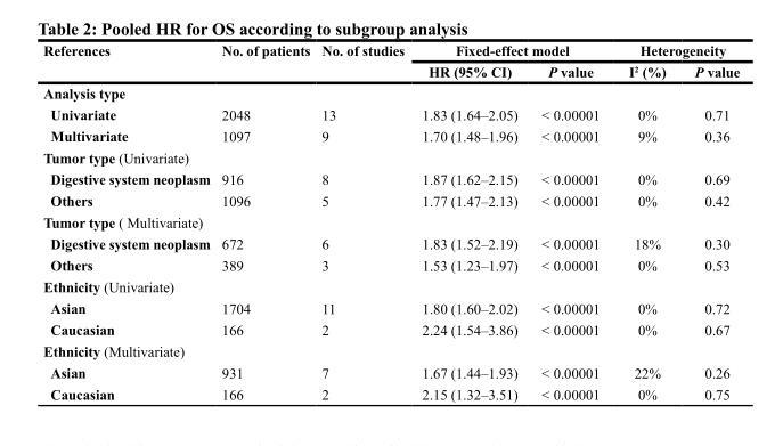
<table><thead><tr><td rowspan="2">References</td><td rowspan="2">No. of patients</td><td rowspan="2">No. of studies</td><td colspan="2">Fixed-effect model</td><td colspan="2">Heterogeneity</td></tr><tr><td>HR (95% CI)</td><td>P value</td><td>I<sup>2</sup> (%)</td><td>P value</td></tr></thead><tbody><tr><td colspan="7">Analysis type</td></tr><tr><td>Univariate</td><td>2048</td><td>13</td><td>1.83 (1.64–2.05)</td><td>&lt; 0.00001</td><td>0%</td><td>0.71</td></tr><tr><td>Multivariate</td><td>1097</td><td>9</td><td>1.70 (1.48–1.96)</td><td>&lt; 0.00001</td><td>9%</td><td>0.36</td></tr><tr><td colspan="7">Tumor type (Univariate)</td></tr><tr><td>Digestive system neoplasm</td><td>916</td><td>8</td><td>1.87 (1.62–2.15)</td><td>&lt; 0.00001</td><td>0%</td><td>0.69</td></tr><tr><td>Others</td><td>1096</td><td>5</td><td>1.77 (1.47–2.13)</td><td>&lt; 0.00001</td><td>0%</td><td>0.42</td></tr><tr><td colspan="7">Tumor type ( Multivariate)</td></tr><tr><td>Digestive system neoplasm</td><td>672</td><td>6</td><td>1.83 (1.52–2.19)</td><td>&lt; 0.00001</td><td>18%</td><td>0.30</td></tr><tr><td>Others</td><td>389</td><td>3</td><td>1.53 (1.23–1.97)</td><td>&lt; 0.00001</td><td>0%</td><td>0.53</td></tr><tr><td colspan="7">Ethnicity (Univariate)</td></tr><tr><td>Asian</td><td>1704</td><td>11</td><td>1.80 (1.60–2.02)</td><td>&lt; 0.00001</td><td>0%</td><td>0.72</td></tr><tr><td>Caucasian</td><td>166</td><td>2</td><td>2.24 (1.54–3.86)</td><td>&lt; 0.00001</td><td>0%</td><td>0.67</td></tr><tr><td colspan="7">Ethnicity (Multivariate)</td></tr><tr><td>Asian</td><td>931</td><td>7</td><td>1.67 (1.44–1.93)</td><td>&lt; 0.00001</td><td>22%</td><td>0.26</td></tr><tr><td>Caucasian</td><td>166</td><td>2</td><td>2.15 (1.32–3.51)</td><td>&lt; 0.00001</td><td>0%</td><td>0.75</td></tr></tbody></table>